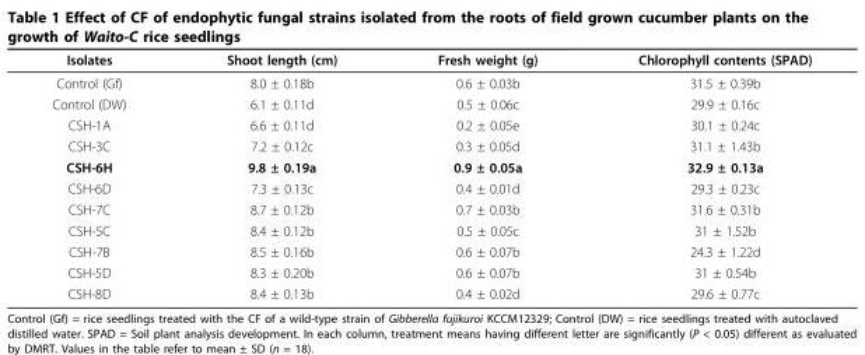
<table><thead><tr><td>Isolates</td><td>Shoot length (cm)</td><td>Fresh weight (g)</td><td>Chlorophyll contents (SPAD)</td></tr></thead><tbody><tr><td>Control (Gf)</td><td>8.0 ± 0.18b</td><td>0.6 ± 0.03b</td><td>31.5 ± 0.39b</td></tr><tr><td>Control (DW)</td><td>6.1 ± 0.11d</td><td>0.5 ± 0.06c</td><td>29.9 ± 0.16c</td></tr><tr><td>CSH-1A</td><td>6.6 ± 0.11d</td><td>0.2 ± 0.05e</td><td>30.1 ± 0.24c</td></tr><tr><td>CSH-3C</td><td>7.2 ± 0.12c</td><td>0.3 ± 0.05d</td><td>31.1 ± 1.43b</td></tr><tr><td>CSH-6H</td><td>9.8 ± 0.19a</td><td>0.9 ± 0.05a</td><td>32.9 ± 0.13a</td></tr><tr><td>CSH-6D</td><td>7.3 ± 0.13c</td><td>0.4 ± 0.01d</td><td>29.3 ± 0.23c</td></tr><tr><td>CSH-7C</td><td>8.7 ± 0.12b</td><td>0.7 ± 0.03b</td><td>31.6 ± 0.31b</td></tr><tr><td>CSH-5C</td><td>8.4 ± 0.12b</td><td>0.5 ± 0.05c</td><td>31 ± 1.52b</td></tr><tr><td>CSH-7B</td><td>8.5 ± 0.16b</td><td>0.6 ± 0.07b</td><td>24.3 ± 1.22d</td></tr><tr><td>CSH-5D</td><td>8.3 ± 0.20b</td><td>0.6 ± 0.07b</td><td>31 ± 0.54b</td></tr><tr><td>CSH-8D</td><td>8.4 ± 0.13b</td><td>0.4 ± 0.02d</td><td>29.6 ± 0.77c</td></tr></tbody></table>